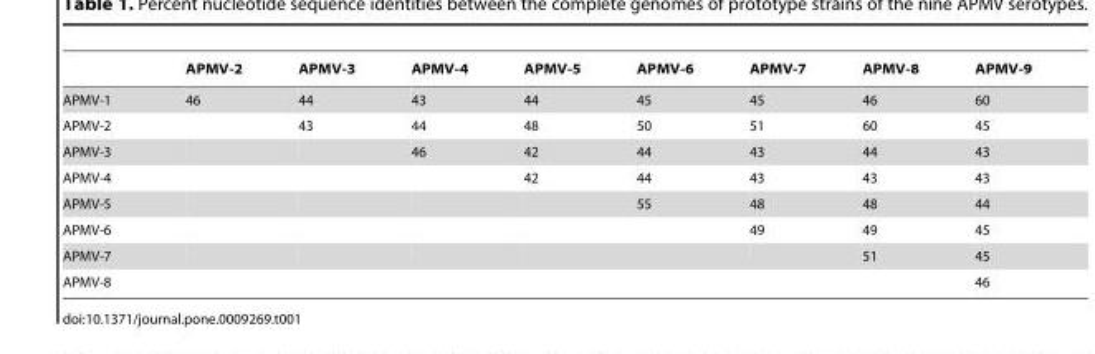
<table><thead><tr><td></td><td>APMV-2</td><td>APMV-3</td><td>APMV-4</td><td>APMV-5</td><td>APMV-6</td><td>APMV-7</td><td>APMV-8</td><td>APMV-9</td></tr></thead><tbody><tr><td>APMV-1</td><td>46</td><td>44</td><td>43</td><td>44</td><td>45</td><td>45</td><td>46</td><td>60</td></tr><tr><td>APMV-2</td><td></td><td>43</td><td>44</td><td>48</td><td>50</td><td>51</td><td>60</td><td>45</td></tr><tr><td>APMV-3</td><td></td><td></td><td>46</td><td>42</td><td>44</td><td>43</td><td>44</td><td>43</td></tr><tr><td>APMV-4</td><td></td><td></td><td></td><td>42</td><td>44</td><td>43</td><td>43</td><td>43</td></tr><tr><td>APMV-5</td><td></td><td></td><td></td><td></td><td>55</td><td>48</td><td>48</td><td>44</td></tr><tr><td>APMV-6</td><td></td><td></td><td></td><td></td><td></td><td>49</td><td>49</td><td>45</td></tr><tr><td>APMV-7</td><td></td><td></td><td></td><td></td><td></td><td></td><td>51</td><td>45</td></tr><tr><td>APMV-8</td><td></td><td></td><td></td><td></td><td></td><td></td><td></td><td>46</td></tr></tbody></table>